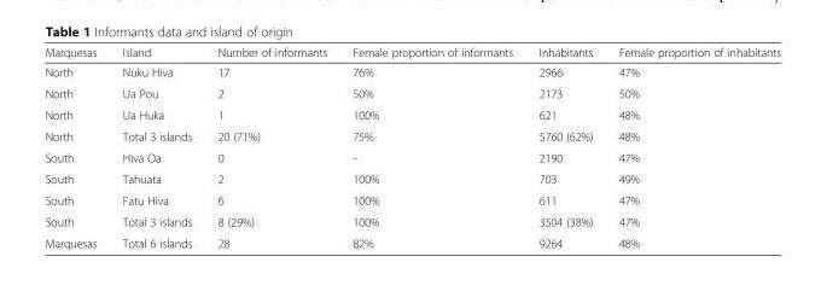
<table><thead><tr><td>Marquesas</td><td>Island</td><td>Number of informants</td><td>Female proportion of informants</td><td>Inhabitants</td><td>Female proportion of inhabitants</td></tr></thead><tbody><tr><td>North</td><td>Nuku Hiva</td><td>17</td><td>76%</td><td>2966</td><td>47%</td></tr><tr><td>North</td><td>Ua Pou</td><td>2</td><td>50%</td><td>2173</td><td>50%</td></tr><tr><td>North</td><td>Ua Huka</td><td>1</td><td>100%</td><td>621</td><td>48%</td></tr><tr><td>North</td><td>Total 3 islands</td><td>20 (71%)</td><td>75%</td><td>5760 (62%)</td><td>48%</td></tr><tr><td>South</td><td>Hiva Oa</td><td>0</td><td>-</td><td>2190</td><td>47%</td></tr><tr><td>South</td><td>Tahuata</td><td>2</td><td>100%</td><td>703</td><td>49%</td></tr><tr><td>South</td><td>Fatu Hiva</td><td>6</td><td>100%</td><td>611</td><td>47%</td></tr><tr><td>South</td><td>Total 3 islands</td><td>8 (29%)</td><td>100%</td><td>3504 (38%)</td><td>47%</td></tr><tr><td>Marquesas</td><td>Total 6 islands</td><td>28</td><td>82%</td><td>9264</td><td>48%</td></tr></tbody></table>